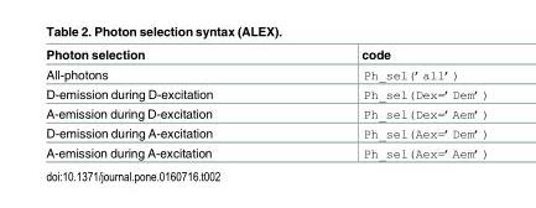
<table><thead><tr><td>Photon selection</td><td>code</td></tr></thead><tbody><tr><td>All-photons</td><td>Ph_sel(’all’)</td></tr><tr><td>D-emission during D-excitation</td><td>Ph_sel(Dex=’Dem’)</td></tr><tr><td>A-emission during D-excitation</td><td>Ph_sel(Dex=’Aem’)</td></tr><tr><td>D-emission during A-excitation</td><td>Ph_sel(Aex=’Dem’)</td></tr><tr><td>A-emission during A-excitation</td><td>Ph_sel(Aex=’Aem’)</td></tr></tbody></table>